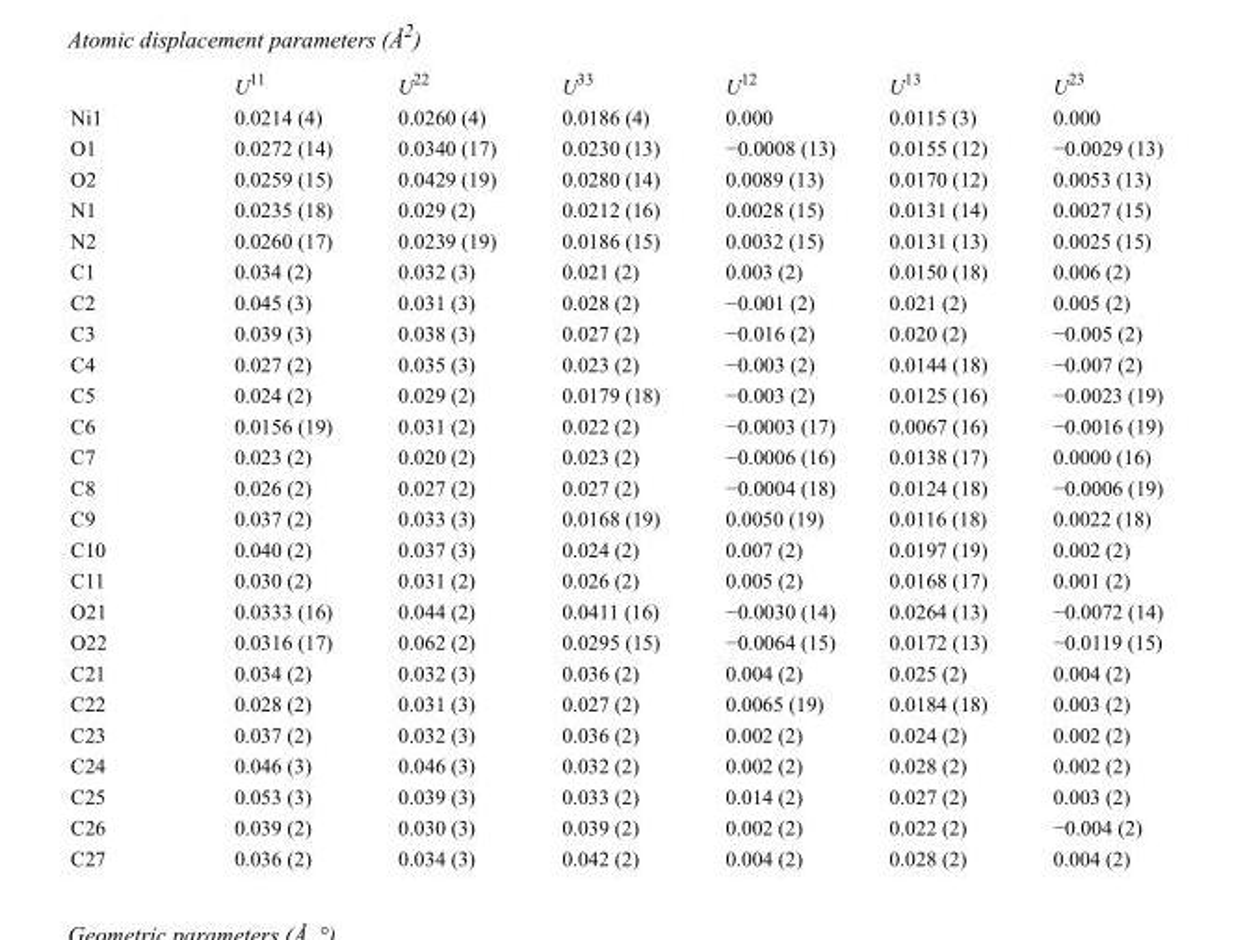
<table><thead><tr><td></td><td>U<sup>11</sup></td><td>U<sup>22</sup></td><td>U<sup>33</sup></td><td>U<sup>12</sup></td><td>U<sup>13</sup></td><td>U<sup>23</sup></td></tr></thead><tbody><tr><td>Ni1</td><td>0.0214 (4)</td><td>0.0260 (4)</td><td>0.0186 (4)</td><td>0.000</td><td>0.0115 (3)</td><td>0.000</td></tr><tr><td>O1</td><td>0.0272 (14)</td><td>0.0340 (17)</td><td>0.0230 (13)</td><td>−0.0008 (13)</td><td>0.0155 (12)</td><td>−0.0029 (13)</td></tr><tr><td>O2</td><td>0.0259 (15)</td><td>0.0429 (19)</td><td>0.0280 (14)</td><td>0.0089 (13)</td><td>0.0170 (12)</td><td>0.0053 (13)</td></tr><tr><td>N1</td><td>0.0235 (18)</td><td>0.029 (2)</td><td>0.0212 (16)</td><td>0.0028 (15)</td><td>0.0131 (14)</td><td>0.0027 (15)</td></tr><tr><td>N2</td><td>0.0260 (17)</td><td>0.0239 (19)</td><td>0.0186 (15)</td><td>0.0032 (15)</td><td>0.0131 (13)</td><td>0.0025 (15)</td></tr><tr><td>C1</td><td>0.034 (2)</td><td>0.032 (3)</td><td>0.021 (2)</td><td>0.003 (2)</td><td>0.0150 (18)</td><td>0.006 (2)</td></tr><tr><td>C2</td><td>0.045 (3)</td><td>0.031 (3)</td><td>0.028 (2)</td><td>−0.001 (2)</td><td>0.021 (2)</td><td>0.005 (2)</td></tr><tr><td>C3</td><td>0.039 (3)</td><td>0.038 (3)</td><td>0.027 (2)</td><td>−0.016 (2)</td><td>0.020 (2)</td><td>−0.005 (2)</td></tr><tr><td>C4</td><td>0.027 (2)</td><td>0.035 (3)</td><td>0.023 (2)</td><td>−0.003 (2)</td><td>0.0144 (18)</td><td>−0.007 (2)</td></tr><tr><td>C5</td><td>0.024 (2)</td><td>0.029 (2)</td><td>0.0179 (18)</td><td>−0.003 (2)</td><td>0.0125 (16)</td><td>−0.0023 (19)</td></tr><tr><td>C6</td><td>0.0156 (19)</td><td>0.031 (2)</td><td>0.022 (2)</td><td>−0.0003 (17)</td><td>0.0067 (16)</td><td>−0.0016 (19)</td></tr><tr><td>C7</td><td>0.023 (2)</td><td>0.020 (2)</td><td>0.023 (2)</td><td>−0.0006 (16)</td><td>0.0138 (17)</td><td>0.0000 (16)</td></tr><tr><td>C8</td><td>0.026 (2)</td><td>0.027 (2)</td><td>0.027 (2)</td><td>−0.0004 (18)</td><td>0.0124 (18)</td><td>−0.0006 (19)</td></tr><tr><td>C9</td><td>0.037 (2)</td><td>0.033 (3)</td><td>0.0168 (19)</td><td>0.0050 (19)</td><td>0.0116 (18)</td><td>0.0022 (18)</td></tr><tr><td>C10</td><td>0.040 (2)</td><td>0.037 (3)</td><td>0.024 (2)</td><td>0.007 (2)</td><td>0.0197 (19)</td><td>0.002 (2)</td></tr><tr><td>C11</td><td>0.030 (2)</td><td>0.031 (2)</td><td>0.026 (2)</td><td>0.005 (2)</td><td>0.0168 (17)</td><td>0.001 (2)</td></tr><tr><td>O21</td><td>0.0333 (16)</td><td>0.044 (2)</td><td>0.0411 (16)</td><td>−0.0030 (14)</td><td>0.0264 (13)</td><td>−0.0072 (14)</td></tr><tr><td>O22</td><td>0.0316 (17)</td><td>0.062 (2)</td><td>0.0295 (15)</td><td>−0.0064 (15)</td><td>0.0172 (13)</td><td>−0.0119 (15)</td></tr><tr><td>C21</td><td>0.034 (2)</td><td>0.032 (3)</td><td>0.036 (2)</td><td>0.004 (2)</td><td>0.025 (2)</td><td>0.004 (2)</td></tr><tr><td>C22</td><td>0.028 (2)</td><td>0.031 (3)</td><td>0.027 (2)</td><td>0.0065 (19)</td><td>0.0184 (18)</td><td>0.003 (2)</td></tr><tr><td>C23</td><td>0.037 (2)</td><td>0.032 (3)</td><td>0.036 (2)</td><td>0.002 (2)</td><td>0.024 (2)</td><td>0.002 (2)</td></tr><tr><td>C24</td><td>0.046 (3)</td><td>0.046 (3)</td><td>0.032 (2)</td><td>0.002 (2)</td><td>0.028 (2)</td><td>0.002 (2)</td></tr><tr><td>C25</td><td>0.053 (3)</td><td>0.039 (3)</td><td>0.033 (2)</td><td>0.014 (2)</td><td>0.027 (2)</td><td>0.003 (2)</td></tr><tr><td>C26</td><td>0.039 (2)</td><td>0.030 (3)</td><td>0.039 (2)</td><td>0.002 (2)</td><td>0.022 (2)</td><td>−0.004 (2)</td></tr><tr><td>C27</td><td>0.036 (2)</td><td>0.034 (3)</td><td>0.042 (2)</td><td>0.004 (2)</td><td>0.028 (2)</td><td>0.004 (2)</td></tr></tbody></table>